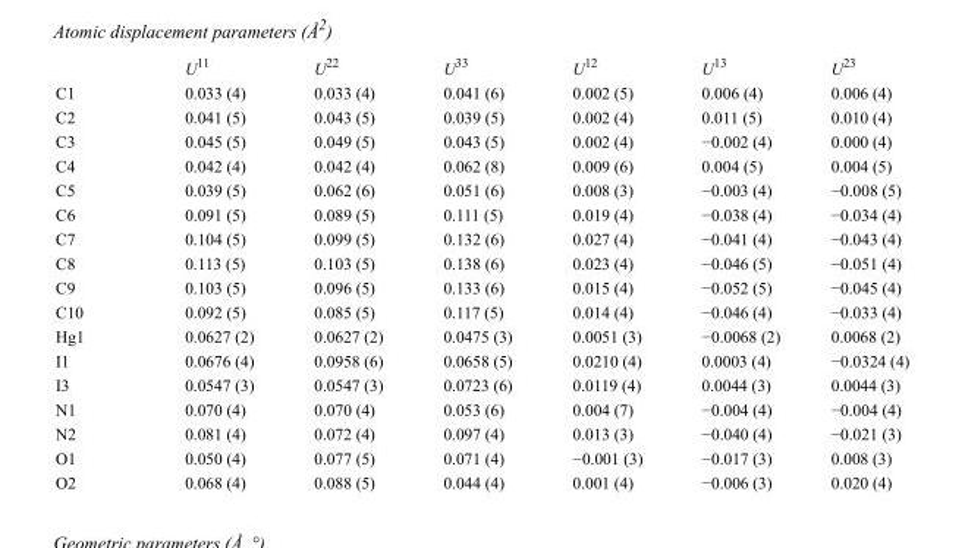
<table><thead><tr><td></td><td>U<sup>11</sup></td><td>U<sup>22</sup></td><td>U<sup>33</sup></td><td>U<sup>12</sup></td><td>U<sup>13</sup></td><td>U<sup>23</sup></td></tr></thead><tbody><tr><td>C1</td><td>0.033 (4)</td><td>0.033 (4)</td><td>0.041 (6)</td><td>0.002 (5)</td><td>0.006 (4)</td><td>0.006 (4)</td></tr><tr><td>C2</td><td>0.041 (5)</td><td>0.043 (5)</td><td>0.039 (5)</td><td>0.002 (4)</td><td>0.011 (5)</td><td>0.010 (4)</td></tr><tr><td>C3</td><td>0.045 (5)</td><td>0.049 (5)</td><td>0.043 (5)</td><td>0.002 (4)</td><td>−0.002 (4)</td><td>0.000 (4)</td></tr><tr><td>C4</td><td>0.042 (4)</td><td>0.042 (4)</td><td>0.062 (8)</td><td>0.009 (6)</td><td>0.004 (5)</td><td>0.004 (5)</td></tr><tr><td>C5</td><td>0.039 (5)</td><td>0.062 (6)</td><td>0.051 (6)</td><td>0.008 (3)</td><td>−0.003 (4)</td><td>−0.008 (5)</td></tr><tr><td>C6</td><td>0.091 (5)</td><td>0.089 (5)</td><td>0.111 (5)</td><td>0.019 (4)</td><td>−0.038 (4)</td><td>−0.034 (4)</td></tr><tr><td>C7</td><td>0.104 (5)</td><td>0.099 (5)</td><td>0.132 (6)</td><td>0.027 (4)</td><td>−0.041 (4)</td><td>−0.043 (4)</td></tr><tr><td>C8</td><td>0.113 (5)</td><td>0.103 (5)</td><td>0.138 (6)</td><td>0.023 (4)</td><td>−0.046 (5)</td><td>−0.051 (4)</td></tr><tr><td>C9</td><td>0.103 (5)</td><td>0.096 (5)</td><td>0.133 (6)</td><td>0.015 (4)</td><td>−0.052 (5)</td><td>−0.045 (4)</td></tr><tr><td>C10</td><td>0.092 (5)</td><td>0.085 (5)</td><td>0.117 (5)</td><td>0.014 (4)</td><td>−0.046 (4)</td><td>−0.033 (4)</td></tr><tr><td>Hg1</td><td>0.0627 (2)</td><td>0.0627 (2)</td><td>0.0475 (3)</td><td>0.0051 (3)</td><td>−0.0068 (2)</td><td>0.0068 (2)</td></tr><tr><td>I1</td><td>0.0676 (4)</td><td>0.0958 (6)</td><td>0.0658 (5)</td><td>0.0210 (4)</td><td>0.0003 (4)</td><td>−0.0324 (4)</td></tr><tr><td>I3</td><td>0.0547 (3)</td><td>0.0547 (3)</td><td>0.0723 (6)</td><td>0.0119 (4)</td><td>0.0044 (3)</td><td>0.0044 (3)</td></tr><tr><td>N1</td><td>0.070 (4)</td><td>0.070 (4)</td><td>0.053 (6)</td><td>0.004 (7)</td><td>−0.004 (4)</td><td>−0.004 (4)</td></tr><tr><td>N2</td><td>0.081 (4)</td><td>0.072 (4)</td><td>0.097 (4)</td><td>0.013 (3)</td><td>−0.040 (4)</td><td>−0.021 (3)</td></tr><tr><td>O1</td><td>0.050 (4)</td><td>0.077 (5)</td><td>0.071 (4)</td><td>−0.001 (3)</td><td>−0.017 (3)</td><td>0.008 (3)</td></tr><tr><td>O2</td><td>0.068 (4)</td><td>0.088 (5)</td><td>0.044 (4)</td><td>0.001 (4)</td><td>−0.006 (3)</td><td>0.020 (4)</td></tr></tbody></table>